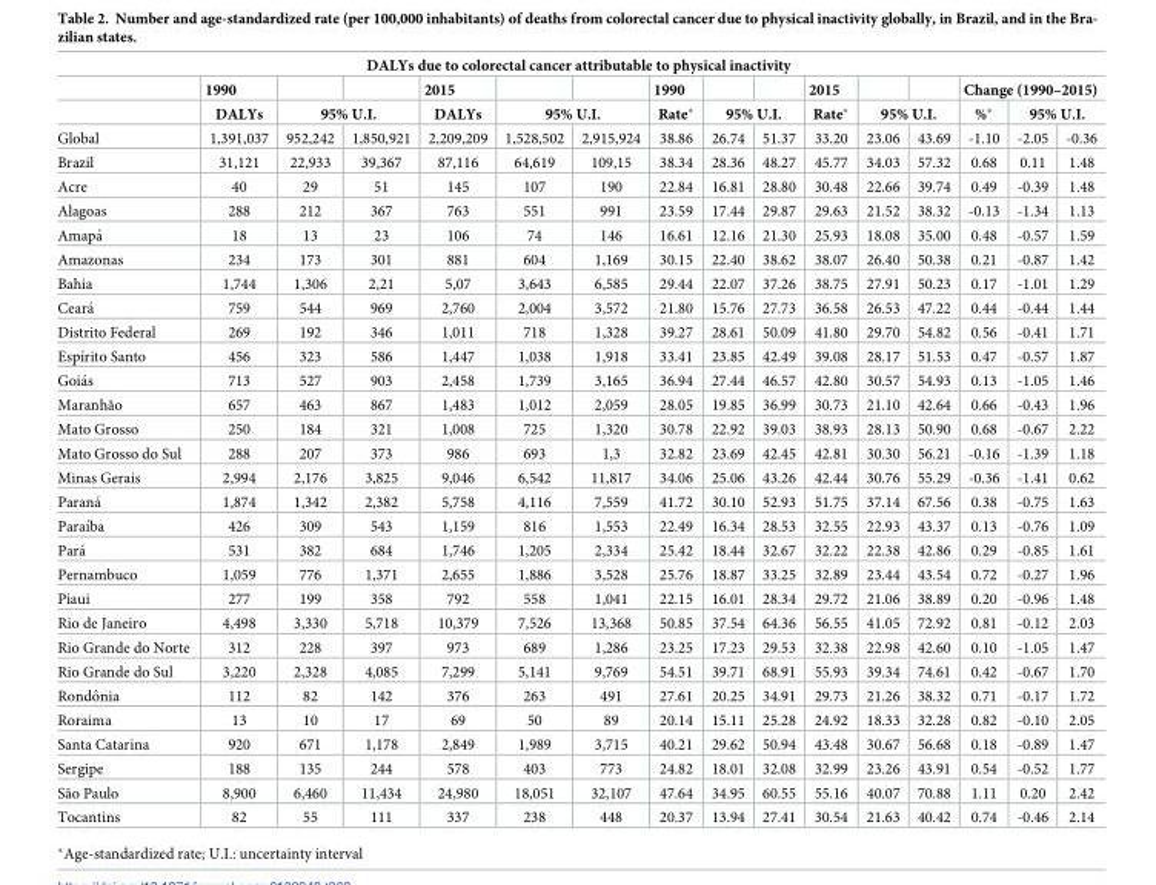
<table><thead><tr><td colspan="16">DALYs due to colorectal cancer attributable to physical inactivity</td></tr><tr><td rowspan="3">Global</td><td rowspan="3">1990 DALYs 1,391,037</td><td></td><td></td><td rowspan="3">2015 DALYs 2,209,209</td><td></td><td></td><td rowspan="3">1990 Rate* 38.86</td><td></td><td></td><td rowspan="3">2015 Rate* 33.20</td><td></td><td></td><td colspan="3">Change (1990–2015)</td></tr><tr><td colspan="2">95% U.I.</td><td colspan="2">95% U.I.</td><td colspan="2">95% U.I.</td><td colspan="2">95% U.I.</td><td rowspan="2">%* -1.10</td><td colspan="2">95% U.I.</td></tr><tr><td>952,242</td><td>1,850,921</td><td>1,528,502</td><td>2,915,924</td><td>26.74</td><td>51.37</td><td>23.06</td><td>43.69</td><td>-2.05</td><td>-0.36</td></tr></thead><tbody><tr><td>Brazil</td><td>31,121</td><td>22,933</td><td>39,367</td><td>87,116</td><td>64,619</td><td>109,15</td><td>38.34</td><td>28.36</td><td>48.27</td><td>45.77</td><td>34.03</td><td>57.32</td><td>0.68</td><td>0.11</td><td>1.48</td></tr><tr><td>Acre</td><td>40</td><td>29</td><td>51</td><td>145</td><td>107</td><td>190</td><td>22.84</td><td>16.81</td><td>28.80</td><td>30.48</td><td>22.66</td><td>39.74</td><td>0.49</td><td>-0.39</td><td>1.48</td></tr><tr><td>Alagoas</td><td>288</td><td>212</td><td>367</td><td>763</td><td>551</td><td>991</td><td>23.59</td><td>17.44</td><td>29.87</td><td>29.63</td><td>21.52</td><td>38.32</td><td>-0.13</td><td>-1.34</td><td>1.13</td></tr><tr><td>Amapa´</td><td>18</td><td>13</td><td>23</td><td>106</td><td>74</td><td>146</td><td>16.61</td><td>12.16</td><td>21.30</td><td>25.93</td><td>18.08</td><td>35.00</td><td>0.48</td><td>-0.57</td><td>1.59</td></tr><tr><td>Amazonas</td><td>234</td><td>173</td><td>301</td><td>881</td><td>604</td><td>1,169</td><td>30.15</td><td>22.40</td><td>38.62</td><td>38.07</td><td>26.40</td><td>50.38</td><td>0.21</td><td>-0.87</td><td>1.42</td></tr><tr><td>Bahia</td><td>1,744</td><td>1,306</td><td>2,21</td><td>5,07</td><td>3,643</td><td>6,585</td><td>29.44</td><td>22.07</td><td>37.26</td><td>38.75</td><td>27.91</td><td>50.23</td><td>0.17</td><td>-1.01</td><td>1.29</td></tr><tr><td>Ceara´</td><td>759</td><td>544</td><td>969</td><td>2,760</td><td>2,004</td><td>3,572</td><td>21.80</td><td>15.76</td><td>27.73</td><td>36.58</td><td>26.53</td><td>47.22</td><td>0.44</td><td>-0.44</td><td>1.44</td></tr><tr><td>Distrito Federal</td><td>269</td><td>192</td><td>346</td><td>1,011</td><td>718</td><td>1,328</td><td>39.27</td><td>28.61</td><td>50.09</td><td>41.80</td><td>29.70</td><td>54.82</td><td>0.56</td><td>-0.41</td><td>1.71</td></tr><tr><td>Espı´rito Santo</td><td>456</td><td>323</td><td>586</td><td>1,447</td><td>1,038</td><td>1,918</td><td>33.41</td><td>23.85</td><td>42.49</td><td>39.08</td><td>28.17</td><td>51.53</td><td>0.47</td><td>-0.57</td><td>1.87</td></tr><tr><td>Goia´s</td><td>713</td><td>527</td><td>903</td><td>2,458</td><td>1,739</td><td>3,165</td><td>36.94</td><td>27.44</td><td>46.57</td><td>42.80</td><td>30.57</td><td>54.93</td><td>0.13</td><td>-1.05</td><td>1.46</td></tr><tr><td>Maranhão</td><td>657</td><td>463</td><td>867</td><td>1,483</td><td>1,012</td><td>2,059</td><td>28.05</td><td>19.85</td><td>36.99</td><td>30.73</td><td>21.10</td><td>42.64</td><td>0.66</td><td>-0.43</td><td>1.96</td></tr><tr><td>Mato Grosso</td><td>250</td><td>184</td><td>321</td><td>1,008</td><td>725</td><td>1,320</td><td>30.78</td><td>22.92</td><td>39.03</td><td>38.93</td><td>28.13</td><td>50.90</td><td>0.68</td><td>-0.67</td><td>2.22</td></tr><tr><td>Mato Grosso do Sul</td><td>288</td><td>207</td><td>373</td><td>986</td><td>693</td><td>1,3</td><td>32.82</td><td>23.69</td><td>42.45</td><td>42.81</td><td>30.30</td><td>56.21</td><td>-0.16</td><td>-1.39</td><td>1.18</td></tr><tr><td>Minas Gerais</td><td>2,994</td><td>2,176</td><td>3,825</td><td>9,046</td><td>6,542</td><td>11,817</td><td>34.06</td><td>25.06</td><td>43.26</td><td>42.44</td><td>30.76</td><td>55.29</td><td>-0.36</td><td>-1.41</td><td>0.62</td></tr><tr><td>Parana´</td><td>1,874</td><td>1,342</td><td>2,382</td><td>5,758</td><td>4,116</td><td>7,559</td><td>41.72</td><td>30.10</td><td>52.93</td><td>51.75</td><td>37.14</td><td>67.56</td><td>0.38</td><td>-0.75</td><td>1.63</td></tr><tr><td>Paraı´ba</td><td>426</td><td>309</td><td>543</td><td>1,159</td><td>816</td><td>1,553</td><td>22.49</td><td>16.34</td><td>28.53</td><td>32.55</td><td>22.93</td><td>43.37</td><td>0.13</td><td>-0.76</td><td>1.09</td></tr><tr><td>Para´</td><td>531</td><td>382</td><td>684</td><td>1,746</td><td>1,205</td><td>2,334</td><td>25.42</td><td>18.44</td><td>32.67</td><td>32.22</td><td>22.38</td><td>42.86</td><td>0.29</td><td>-0.85</td><td>1.61</td></tr><tr><td>Pernambuco</td><td>1,059</td><td>776</td><td>1,371</td><td>2,655</td><td>1,886</td><td>3,528</td><td>25.76</td><td>18.87</td><td>33.25</td><td>32.89</td><td>23.44</td><td>43.54</td><td>0.72</td><td>-0.27</td><td>1.96</td></tr><tr><td>Piaui</td><td>277</td><td>199</td><td>358</td><td>792</td><td>558</td><td>1,041</td><td>22.15</td><td>16.01</td><td>28.34</td><td>29.72</td><td>21.06</td><td>38.89</td><td>0.20</td><td>-0.96</td><td>1.48</td></tr><tr><td>Rio de Janeiro</td><td>4,498</td><td>3,330</td><td>5,718</td><td>10,379</td><td>7,526</td><td>13,368</td><td>50.85</td><td>37.54</td><td>64.36</td><td>56.55</td><td>41.05</td><td>72.92</td><td>0.81</td><td>-0.12</td><td>2.03</td></tr><tr><td>Rio Grande do Norte</td><td>312</td><td>228</td><td>397</td><td>973</td><td>689</td><td>1,286</td><td>23.25</td><td>17.23</td><td>29.53</td><td>32.38</td><td>22.98</td><td>42.60</td><td>0.10</td><td>-1.05</td><td>1.47</td></tr><tr><td>Rio Grande do Sul</td><td>3,220</td><td>2,328</td><td>4,085</td><td>7,299</td><td>5,141</td><td>9,769</td><td>54.51</td><td>39.71</td><td>68.91</td><td>55.93</td><td>39.34</td><td>74.61</td><td>0.42</td><td>-0.67</td><td>1.70</td></tr><tr><td>Rondoˆnia</td><td>112</td><td>82</td><td>142</td><td>376</td><td>263</td><td>491</td><td>27.61</td><td>20.25</td><td>34.91</td><td>29.73</td><td>21.26</td><td>38.32</td><td>0.71</td><td>-0.17</td><td>1.72</td></tr><tr><td>Roraima</td><td>13</td><td>10</td><td>17</td><td>69</td><td>50</td><td>89</td><td>20.14</td><td>15.11</td><td>25.28</td><td>24.92</td><td>18.33</td><td>32.28</td><td>0.82</td><td>-0.10</td><td>2.05</td></tr><tr><td>Santa Catarina</td><td>920</td><td>671</td><td>1,178</td><td>2,849</td><td>1,989</td><td>3,715</td><td>40.21</td><td>29.62</td><td>50.94</td><td>43.48</td><td>30.67</td><td>56.68</td><td>0.18</td><td>-0.89</td><td>1.47</td></tr><tr><td>Sergipe</td><td>188</td><td>135</td><td>244</td><td>578</td><td>403</td><td>773</td><td>24.82</td><td>18.01</td><td>32.08</td><td>32.99</td><td>23.26</td><td>43.91</td><td>0.54</td><td>-0.52</td><td>1.77</td></tr><tr><td>São Paulo</td><td>8,900</td><td>6,460</td><td>11,434</td><td>24,980</td><td>18,051</td><td>32,107</td><td>47.64</td><td>34.95</td><td>60.55</td><td>55.16</td><td>40.07</td><td>70.88</td><td>1.11</td><td>0.20</td><td>2.42</td></tr><tr><td>Tocantins</td><td>82</td><td>55</td><td>111</td><td>337</td><td>238</td><td>448</td><td>20.37</td><td>13.94</td><td>27.41</td><td>30.54</td><td>21.63</td><td>40.42</td><td>0.74</td><td>-0.46</td><td>2.14</td></tr></tbody></table>